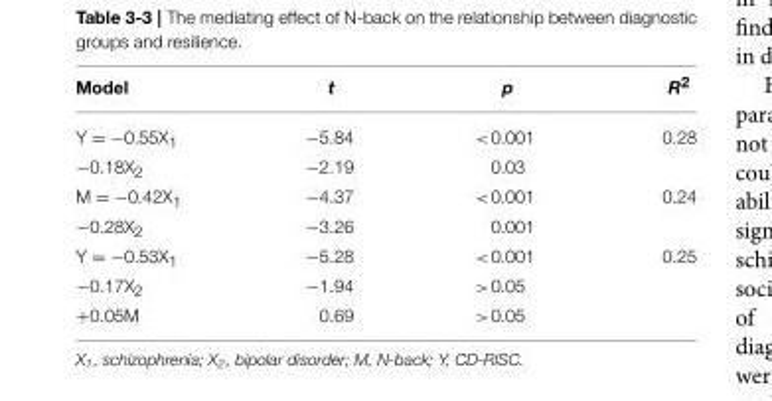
<table><thead><tr><td>Model</td><td>t</td><td>p</td><td>R<sup>2</sup></td></tr></thead><tbody><tr><td>Y = −0.55X<sub>1</sub></td><td>−5.84</td><td>&lt;0.001</td><td>0.28</td></tr><tr><td>−0.18X<sub>2</sub></td><td>−2.19</td><td>0.03</td><td></td></tr><tr><td>M = −0.42X<sub>1</sub></td><td>−4.37</td><td>&lt;0.001</td><td>0.24</td></tr><tr><td>−0.28X<sub>2</sub></td><td>−3.26</td><td>0.001</td><td></td></tr><tr><td>Y = −0.53X<sub>1</sub></td><td>−5.28</td><td>&lt;0.001</td><td>0.25</td></tr><tr><td>−0.17X<sub>2</sub></td><td>−1.94</td><td>&gt;0.05</td><td></td></tr><tr><td>+0.05M</td><td>0.69</td><td>&gt;0.05</td><td></td></tr></tbody></table>